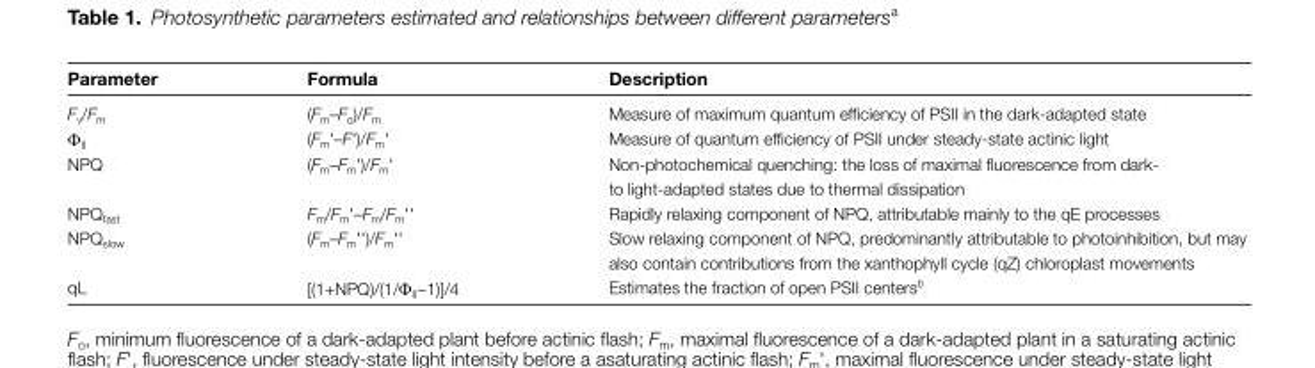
<table><thead><tr><td>Parameter</td><td>Formula</td><td>Description</td></tr></thead><tbody><tr><td>F<sub>v</sub>/F<sub>m</sub></td><td>(F<sub>m</sub>–F<sub>o</sub>)/F<sub>m</sub></td><td>Measure of maximum quantum efficiency of PSII in the dark-adapted state</td></tr><tr><td>Φ<sub>II</sub></td><td>(F<sub>m</sub>&#x27;–F&#x27;)/F<sub>m</sub>&#x27;</td><td>Measure of quantum efficiency of PSII under steady-state actinic light</td></tr><tr><td>NPQ</td><td>(F<sub>m</sub>–F<sub>m</sub>&#x27;)/F<sub>m</sub>&#x27;</td><td>Non-photochemical quenching: the loss of maximal fluorescence from dark- to light-adapted states due to thermal dissipation</td></tr><tr><td>NPQ<sub>fast</sub></td><td>F<sub>m</sub>/F<sub>m</sub>&#x27;–F<sub>m</sub>/F<sub>m</sub>&#x27;&#x27;</td><td>Rapidly relaxing component of NPQ, attributable mainly to the qE processes</td></tr><tr><td>NPQ<sub>slow</sub></td><td>(F<sub>m</sub>–F<sub>m</sub>&#x27;&#x27;)/F<sub>m</sub>&#x27;&#x27;</td><td>Slow relaxing component of NPQ, predominantly attributable to photoinhibition, but may also contain contributions from the xanthophyll cycle (qZ) chloroplast movements</td></tr><tr><td>qL</td><td>[(1+NPQ)/(1/Φ<sub>II</sub>−1)]/4</td><td>Estimates the fraction of open PSII centers<sup>b</sup></td></tr></tbody></table>